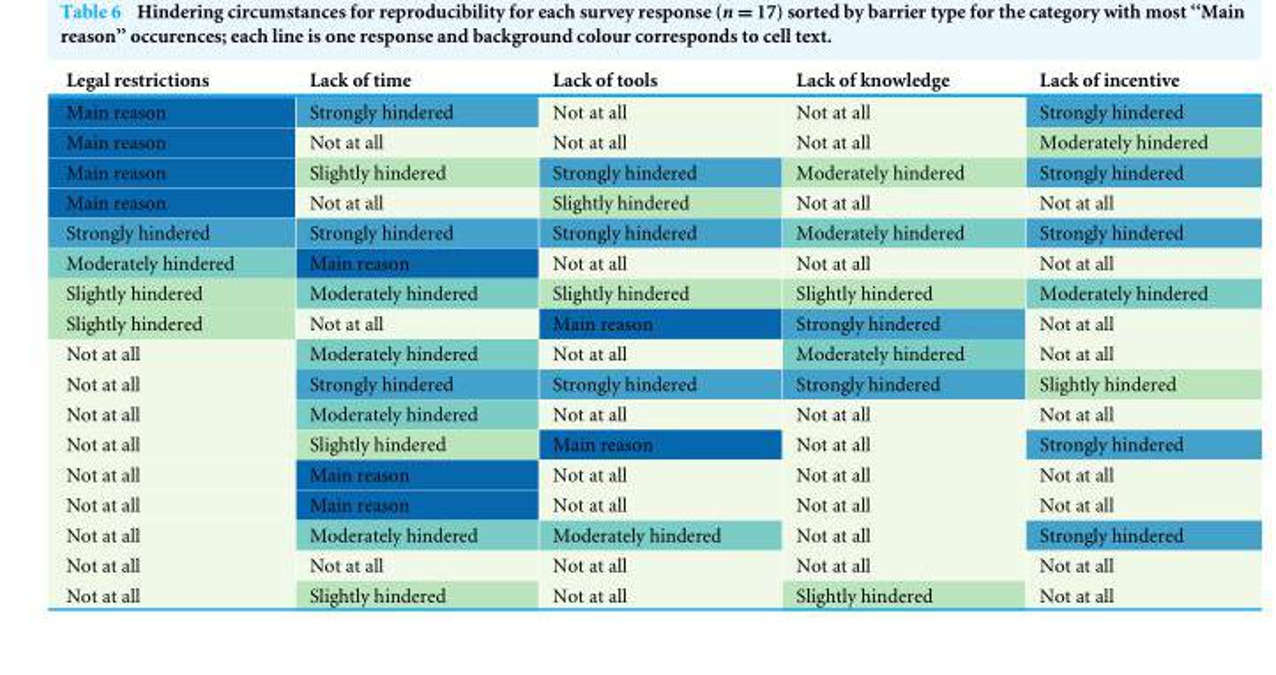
<table><thead><tr><td>Legal restrictions</td><td>Lack of time</td><td>Lack of tools</td><td>Lack of knowledge</td><td>Lack of incentive</td></tr></thead><tbody><tr><td>Main reason</td><td>Strongly hindered</td><td>Not at all</td><td>Not at all</td><td>Strongly hindered</td></tr><tr><td>Main reason</td><td>Not at all</td><td>Not at all</td><td>Not at all</td><td>Moderately hindered</td></tr><tr><td>Main reason</td><td>Slightly hindered</td><td>Strongly hindered</td><td>Moderately hindered</td><td>Strongly hindered</td></tr><tr><td>Main reason</td><td>Not at all</td><td>Slightly hindered</td><td>Not at all</td><td>Not at all</td></tr><tr><td>Strongly hindered</td><td>Strongly hindered</td><td>Strongly hindered</td><td>Moderately hindered</td><td>Strongly hindered</td></tr><tr><td>Moderately hindered</td><td>Main reason</td><td>Not at all</td><td>Not at all</td><td>Not at all</td></tr><tr><td>Slightly hindered</td><td>Moderately hindered</td><td>Slightly hindered</td><td>Slightly hindered</td><td>Moderately hindered</td></tr><tr><td>Slightly hindered</td><td>Not at all</td><td>Main reason</td><td>Strongly hindered</td><td>Not at all</td></tr><tr><td>Not at all</td><td>Moderately hindered</td><td>Not at all</td><td>Moderately hindered</td><td>Not at all</td></tr><tr><td>Not at all</td><td>Strongly hindered</td><td>Strongly hindered</td><td>Strongly hindered</td><td>Slightly hindered</td></tr><tr><td>Not at all</td><td>Moderately hindered</td><td>Not at all</td><td>Not at all</td><td>Not at all</td></tr><tr><td>Not at all</td><td>Slightly hindered</td><td>Main reason</td><td>Not at all</td><td>Strongly hindered</td></tr><tr><td>Not at all</td><td>Main reason</td><td>Not at all</td><td>Not at all</td><td>Not at all</td></tr><tr><td>Not at all</td><td>Main reason</td><td>Not at all</td><td>Not at all</td><td>Not at all</td></tr><tr><td>Not at all</td><td>Moderately hindered</td><td>Moderately hindered</td><td>Not at all</td><td>Strongly hindered</td></tr><tr><td>Not at all</td><td>Not at all</td><td>Not at all</td><td>Not at all</td><td>Not at all</td></tr><tr><td>Not at all</td><td>Slightly hindered</td><td>Not at all</td><td>Slightly hindered</td><td>Not at all</td></tr></tbody></table>